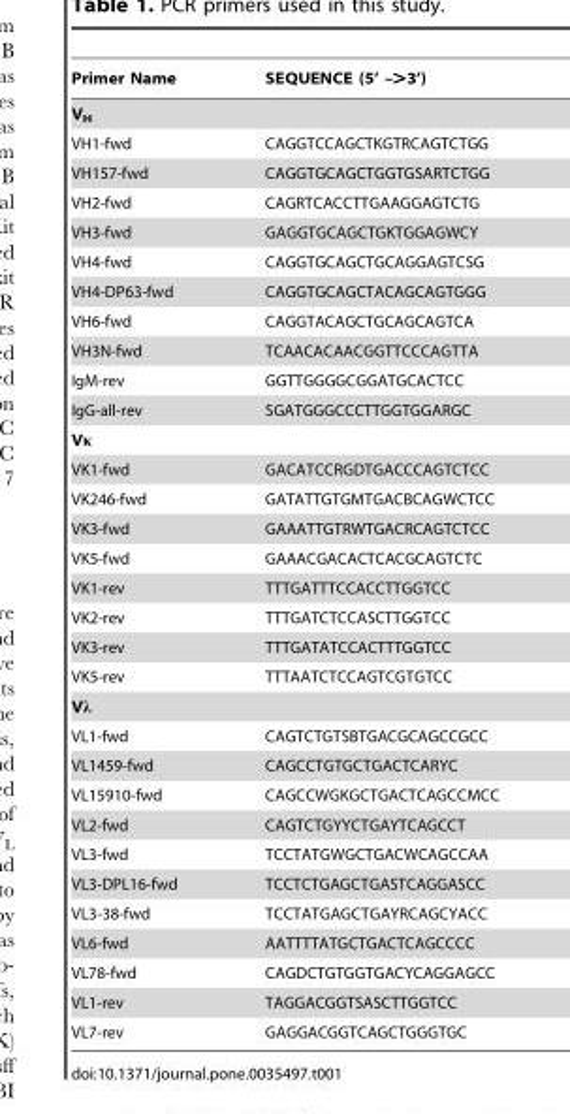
<table><thead><tr><td>Primer Name</td><td>SEQUENCE (5’ –&gt;3’)</td></tr></thead><tbody><tr><td colspan="2">V<sub>H</sub></td></tr><tr><td>VH1-fwd</td><td>CAGGTCCAGCTKGTRCAGTCTGG</td></tr><tr><td>VH157-fwd</td><td>CAGGTGCAGCTGGTGSARTCTGG</td></tr><tr><td>VH2-fwd</td><td>CAGRTCACCTTGAAGGAGTCTG</td></tr><tr><td>VH3-fwd</td><td>GAGGTGCAGCTGKTGGAGWCY</td></tr><tr><td>VH4-fwd</td><td>CAGGTGCAGCTGCAGGAGTCSG</td></tr><tr><td>VH4-DP63-fwd</td><td>CAGGTGCAGCTACAGCAGTGGG</td></tr><tr><td>VH6-fwd</td><td>CAGGTACAGCTGCAGCAGTCA</td></tr><tr><td>VH3N-fwd</td><td>TCAACACAACGGTTCCCAGTTA</td></tr><tr><td>IgM-rev</td><td>GGTTGGGGCGGATGCACTCC</td></tr><tr><td>IgG-all-rev</td><td>SGATGGGCCCTTGGTGGARGC</td></tr><tr><td colspan="2">Vκ</td></tr><tr><td>VK1-fwd</td><td>GACATCCRGDTGACCCAGTCTCC</td></tr><tr><td>VK246-fwd</td><td>GATATTGTGMTGACBCAGWCTCC</td></tr><tr><td>VK3-fwd</td><td>GAAATTGTRWTGACRCAGTCTCC</td></tr><tr><td>VK5-fwd</td><td>GAAACGACACTCACGCAGTCTC</td></tr><tr><td>VK1-rev</td><td>TTTGATTTCCACCTTGGTCC</td></tr><tr><td>VK2-rev</td><td>TTTGATCTCCASCTTGGTCC</td></tr><tr><td>VK3-rev</td><td>TTTGATATCCACTTTGGTCC</td></tr><tr><td>VK5-rev</td><td>TTTAATCTCCAGTCGTGTCC</td></tr><tr><td colspan="2">Vλ</td></tr><tr><td>VL1-fwd</td><td>CAGTCTGTSBTGACGCAGCCGCC</td></tr><tr><td>VL1459-fwd</td><td>CAGCCTGTGCTGACTCARYC</td></tr><tr><td>VL15910-fwd</td><td>CAGCCWGKGCTGACTCAGCCMCC</td></tr><tr><td>VL2-fwd</td><td>CAGTCTGYYCTGAYTCAGCCT</td></tr><tr><td>VL3-fwd</td><td>TCCTATGWGCTGACWCAGCCAA</td></tr><tr><td>VL3-DPL16-fwd</td><td>TCCTCTGAGCTGASTCAGGASCC</td></tr><tr><td>VL3-38-fwd</td><td>TCCTATGAGCTGAYRCAGCYACC</td></tr><tr><td>VL6-fwd</td><td>AATTTTATGCTGACTCAGCCCC</td></tr><tr><td>VL78-fwd</td><td>CAGDCTGTGGTGACYCAGGAGCC</td></tr><tr><td>VL1-rev</td><td>TAGGACGGTSASCTTGGTCC</td></tr><tr><td>VL7-rev</td><td>GAGGACGGTCAGCTGGGTGC</td></tr></tbody></table>